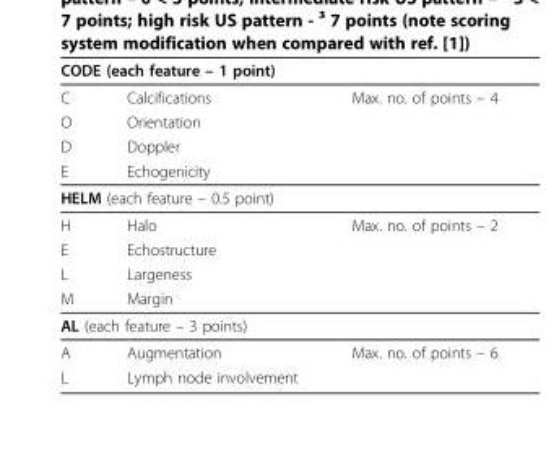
<table><thead><tr><td colspan="3">CODE (each feature – 1 point)</td></tr><tr><td>C</td><td>Calcifications</td><td>Max. no. of points – 4</td></tr></thead><tbody><tr><td>O</td><td>Orientation</td><td></td></tr><tr><td>D</td><td>Doppler</td><td></td></tr><tr><td>E</td><td>Echogenicity</td><td></td></tr><tr><td colspan="3">HELM (each feature – 0.5 point)</td></tr><tr><td>H</td><td>Halo</td><td>Max. no. of points – 2</td></tr><tr><td>E</td><td>Echostructure</td><td></td></tr><tr><td>L</td><td>Largeness</td><td></td></tr><tr><td>M</td><td>Margin</td><td></td></tr><tr><td colspan="3">AL (each feature – 3 points)</td></tr><tr><td>A</td><td>Augmentation</td><td>Max. no. of points – 6</td></tr><tr><td>L</td><td>Lymph node involvement</td><td></td></tr></tbody></table>